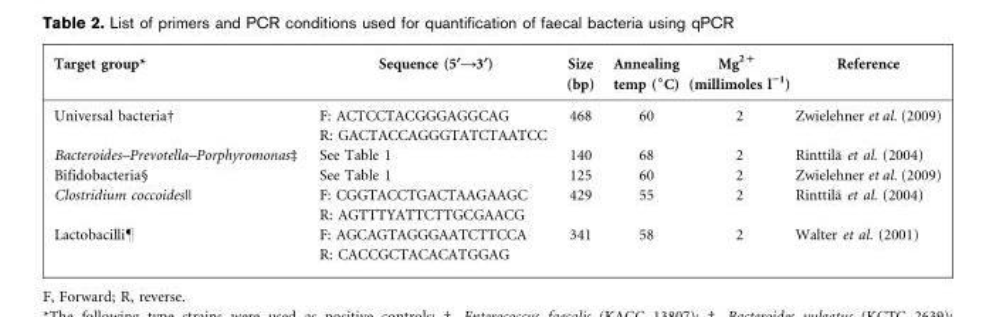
<table><thead><tr><td>Target group*</td><td>Sequence (5§A3§)</td><td>Size (bp)</td><td>Annealing temp (°C)</td><td>Mg2+ (millimoles l”1)</td><td>Reference</td></tr></thead><tbody><tr><td rowspan="2">Universal bacteria†</td><td>F: ACTCCTACGGGAGGCAG</td><td>468</td><td>60</td><td>2</td><td>Zwielehner et al. (2009)</td></tr><tr><td>R: GACTACCAGGGTATCTAATCC</td><td></td><td></td><td></td><td></td></tr><tr><td>Bacteroides–Prevotella–Porphyromonas‡</td><td>See Table 1</td><td>140</td><td>68</td><td>2</td><td>Rinttila¨ et al. (2004)</td></tr><tr><td>Bifidobacteria§</td><td>See Table 1</td><td>125</td><td>60</td><td>2</td><td>Zwielehner et al. (2009)</td></tr><tr><td rowspan="2">Clostridium coccoides||</td><td>F: CGGTACCTGACTAAGAAGC</td><td>429</td><td>55</td><td>2</td><td>Rinttila¨ et al. (2004)</td></tr><tr><td>R: AGTTTYATTCTTGCGAACG</td><td></td><td></td><td></td><td></td></tr><tr><td rowspan="2">Lactobacilli¶</td><td>F: AGCAGTAGGGAATCTTCCA</td><td>341</td><td>58</td><td>2</td><td>Walter et al. (2001)</td></tr><tr><td>R: CACCGCTACACATGGAG</td><td></td><td></td><td></td><td></td></tr></tbody></table>